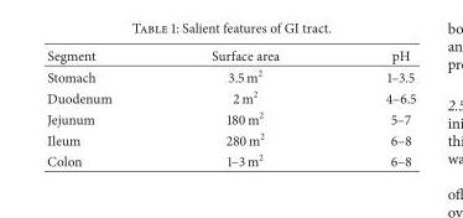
<table><thead><tr><td>Segment</td><td>Surface area</td><td>pH</td></tr></thead><tbody><tr><td>Stomach</td><td>3.5 m<sup>2</sup></td><td>1–3.5</td></tr><tr><td>Duodenum</td><td>2 m<sup>2</sup></td><td>4–6.5</td></tr><tr><td>Jejunum</td><td>180 m<sup>2</sup></td><td>5–7</td></tr><tr><td>Ileum</td><td>280 m<sup>2</sup></td><td>6–8</td></tr><tr><td>Colon</td><td>1–3 m<sup>2</sup></td><td>6–8</td></tr></tbody></table>